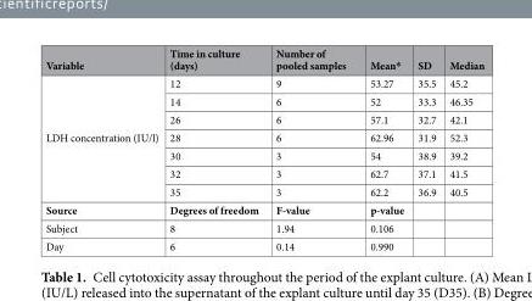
<table><thead><tr><td>Variable</td><td>Time in culture (days)</td><td>Number of pooled samples</td><td>Mean*</td><td>SD</td><td>Median</td></tr></thead><tbody><tr><td rowspan="7">LDH concentration (IU/l)</td><td>12</td><td>9</td><td>53.27</td><td>35.5</td><td>45.2</td></tr><tr><td>14</td><td>6</td><td>52</td><td>33.3</td><td>46.35</td></tr><tr><td>26</td><td>6</td><td>57.1</td><td>32.7</td><td>42.1</td></tr><tr><td>28</td><td>6</td><td>62.96</td><td>31.9</td><td>52.3</td></tr><tr><td>30</td><td>3</td><td>54</td><td>38.9</td><td>39.2</td></tr><tr><td>32</td><td>3</td><td>62.7</td><td>37.1</td><td>41.5</td></tr><tr><td>35</td><td>3</td><td>62.2</td><td>36.9</td><td>40.5</td></tr><tr><td>Source</td><td>Degrees of freedom</td><td>F-value</td><td>p-value</td><td></td><td></td></tr><tr><td>Subject</td><td>8</td><td>1.94</td><td>0.106</td><td></td><td></td></tr><tr><td>Day</td><td>6</td><td>0.14</td><td>0.990</td><td></td><td></td></tr></tbody></table>